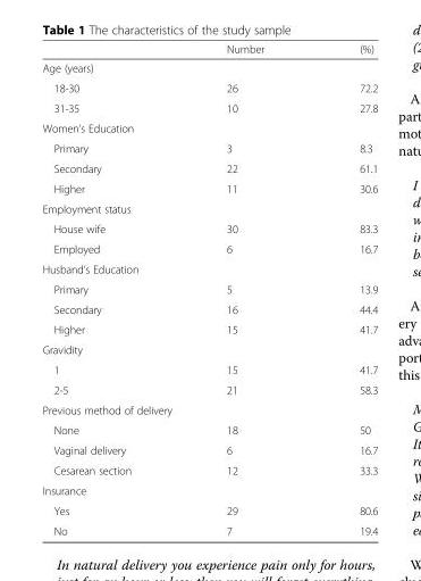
<table><thead><tr><td></td><td>Number</td><td>(%)</td></tr></thead><tbody><tr><td colspan="3">Age (years)</td></tr><tr><td>18-30</td><td>26</td><td>72.2</td></tr><tr><td>31-35</td><td>10</td><td>27.8</td></tr><tr><td colspan="3">Women’s Education</td></tr><tr><td>Primary</td><td>3</td><td>8.3</td></tr><tr><td>Secondary</td><td>22</td><td>61.1</td></tr><tr><td>Higher</td><td>11</td><td>30.6</td></tr><tr><td colspan="3">Employment status</td></tr><tr><td>House wife</td><td>30</td><td>83.3</td></tr><tr><td>Employed</td><td>6</td><td>16.7</td></tr><tr><td colspan="3">Husband’s Education</td></tr><tr><td>Primary</td><td>5</td><td>13.9</td></tr><tr><td>Secondary</td><td>16</td><td>44.4</td></tr><tr><td>Higher</td><td>15</td><td>41.7</td></tr><tr><td colspan="3">Gravidity</td></tr><tr><td>1</td><td>15</td><td>41.7</td></tr><tr><td>2-5</td><td>21</td><td>58.3</td></tr><tr><td colspan="3">Previous method of delivery</td></tr><tr><td>None</td><td>18</td><td>50</td></tr><tr><td>Vaginal delivery</td><td>6</td><td>16.7</td></tr><tr><td>Cesarean section</td><td>12</td><td>33.3</td></tr><tr><td colspan="3">Insurance</td></tr><tr><td>Yes</td><td>29</td><td>80.6</td></tr><tr><td>No</td><td>7</td><td>19.4</td></tr></tbody></table>